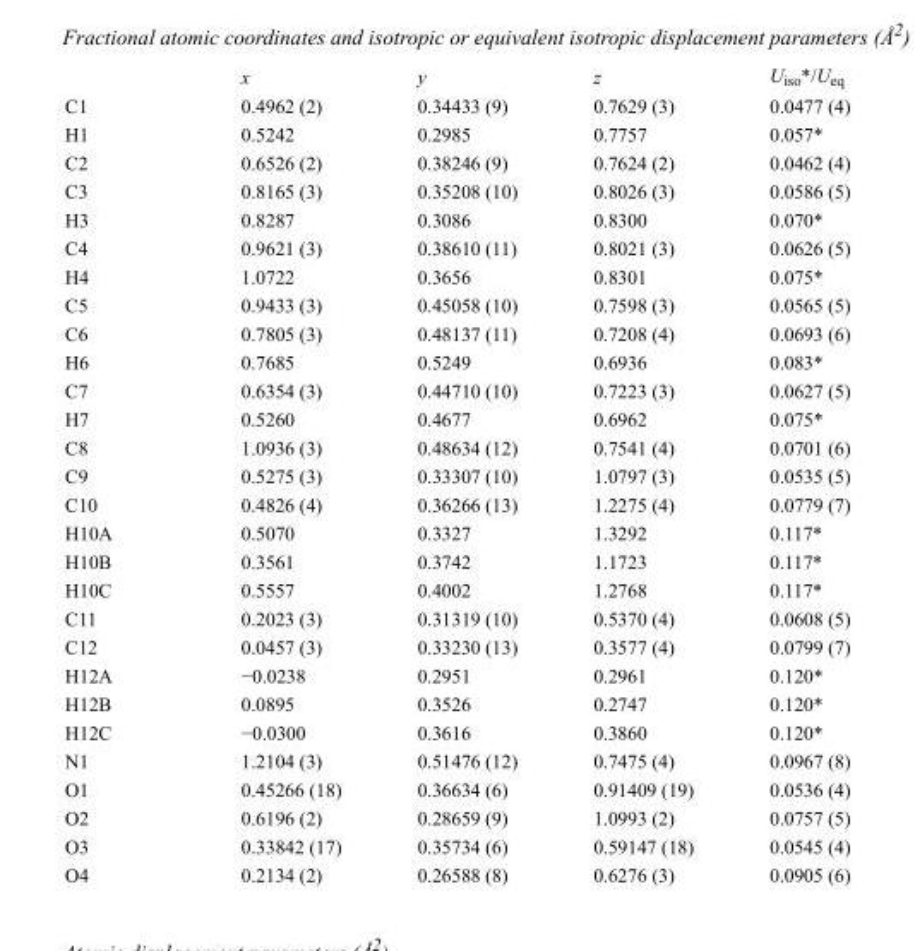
<table><thead><tr><td></td><td>x</td><td>y</td><td>z</td><td>U<sub>iso</sub>*/U<sub>eq</sub></td></tr></thead><tbody><tr><td>C1</td><td>0.4962 (2)</td><td>0.34433 (9)</td><td>0.7629 (3)</td><td>0.0477 (4)</td></tr><tr><td>H1</td><td>0.5242</td><td>0.2985</td><td>0.7757</td><td>0.057*</td></tr><tr><td>C2</td><td>0.6526 (2)</td><td>0.38246 (9)</td><td>0.7624 (2)</td><td>0.0462 (4)</td></tr><tr><td>C3</td><td>0.8165 (3)</td><td>0.35208 (10)</td><td>0.8026 (3)</td><td>0.0586 (5)</td></tr><tr><td>H3</td><td>0.8287</td><td>0.3086</td><td>0.8300</td><td>0.070*</td></tr><tr><td>C4</td><td>0.9621 (3)</td><td>0.38610 (11)</td><td>0.8021 (3)</td><td>0.0626 (5)</td></tr><tr><td>H4</td><td>1.0722</td><td>0.3656</td><td>0.8301</td><td>0.075*</td></tr><tr><td>C5</td><td>0.9433 (3)</td><td>0.45058 (10)</td><td>0.7598 (3)</td><td>0.0565 (5)</td></tr><tr><td>C6</td><td>0.7805 (3)</td><td>0.48137 (11)</td><td>0.7208 (4)</td><td>0.0693 (6)</td></tr><tr><td>H6</td><td>0.7685</td><td>0.5249</td><td>0.6936</td><td>0.083*</td></tr><tr><td>C7</td><td>0.6354 (3)</td><td>0.44710 (10)</td><td>0.7223 (3)</td><td>0.0627 (5)</td></tr><tr><td>H7</td><td>0.5260</td><td>0.4677</td><td>0.6962</td><td>0.075*</td></tr><tr><td>C8</td><td>1.0936 (3)</td><td>0.48634 (12)</td><td>0.7541 (4)</td><td>0.0701 (6)</td></tr><tr><td>C9</td><td>0.5275 (3)</td><td>0.33307 (10)</td><td>1.0797 (3)</td><td>0.0535 (5)</td></tr><tr><td>C10</td><td>0.4826 (4)</td><td>0.36266 (13)</td><td>1.2275 (4)</td><td>0.0779 (7)</td></tr><tr><td>H10A</td><td>0.5070</td><td>0.3327</td><td>1.3292</td><td>0.117*</td></tr><tr><td>H10B</td><td>0.3561</td><td>0.3742</td><td>1.1723</td><td>0.117*</td></tr><tr><td>H10C</td><td>0.5557</td><td>0.4002</td><td>1.2768</td><td>0.117*</td></tr><tr><td>C11</td><td>0.2023 (3)</td><td>0.31319 (10)</td><td>0.5370 (4)</td><td>0.0608 (5)</td></tr><tr><td>C12</td><td>0.0457 (3)</td><td>0.33230 (13)</td><td>0.3577 (4)</td><td>0.0799 (7)</td></tr><tr><td>H12A</td><td>−0.0238</td><td>0.2951</td><td>0.2961</td><td>0.120*</td></tr><tr><td>H12B</td><td>0.0895</td><td>0.3526</td><td>0.2747</td><td>0.120*</td></tr><tr><td>H12C</td><td>−0.0300</td><td>0.3616</td><td>0.3860</td><td>0.120*</td></tr><tr><td>N1</td><td>1.2104 (3)</td><td>0.51476 (12)</td><td>0.7475 (4)</td><td>0.0967 (8)</td></tr><tr><td>O1</td><td>0.45266 (18)</td><td>0.36634 (6)</td><td>0.91409 (19)</td><td>0.0536 (4)</td></tr><tr><td>O2</td><td>0.6196 (2)</td><td>0.28659 (9)</td><td>1.0993 (2)</td><td>0.0757 (5)</td></tr><tr><td>O3</td><td>0.33842 (17)</td><td>0.35734 (6)</td><td>0.59147 (18)</td><td>0.0545 (4)</td></tr><tr><td>O4</td><td>0.2134 (2)</td><td>0.26588 (8)</td><td>0.6276 (3)</td><td>0.0905 (6)</td></tr></tbody></table>